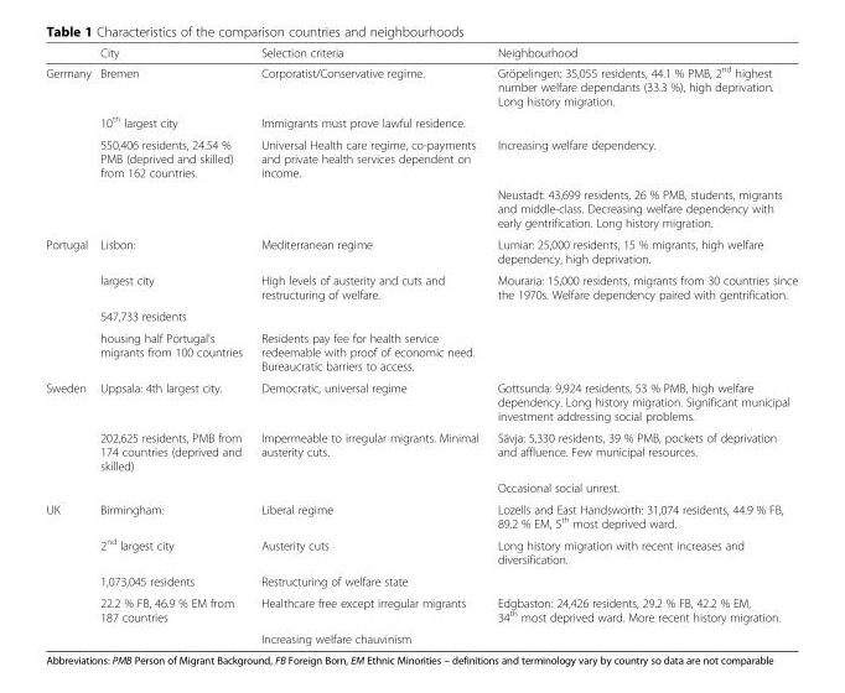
<table><thead><tr><td></td><td>City</td><td>Selection criteria</td><td>Neighbourhood</td></tr></thead><tbody><tr><td rowspan="4">Germany</td><td>Bremen</td><td>Corporatist/Conservative regime.</td><td>Gröpelingen: 35,055 residents, 44.1 % PMB, 2<sup>nd</sup> highest number welfare dependants (33.3 %), high deprivation. Long history migration.</td></tr><tr><td>10<sup>th</sup> largest city</td><td>Immigrants must prove lawful residence.</td><td></td></tr><tr><td>550,406 residents, 24.54 % PMB (deprived and skilled) from 162 countries.</td><td>Universal Health care regime, co-payments and private health services dependent on income.</td><td>Increasing welfare dependency.</td></tr><tr><td></td><td></td><td>Neustadt: 43,699 residents, 26 % PMB, students, migrants and middle-class. Decreasing welfare dependency with early gentrification. Long history migration.</td></tr><tr><td rowspan="4">Portugal</td><td>Lisbon:</td><td>Mediterranean regime</td><td>Lumiar: 25,000 residents, 15 % migrants, high welfare dependency, high deprivation.</td></tr><tr><td>largest city</td><td>High levels of austerity and cuts and restructuring of welfare.</td><td>Mouraria: 15,000 residents, migrants from 30 countries since the 1970s. Welfare dependency paired with gentrification.</td></tr><tr><td>547,733 residents</td><td></td><td></td></tr><tr><td>housing half Portugal’s migrants from 100 countries</td><td>Residents pay fee for health service redeemable with proof of economic need. Bureaucratic barriers to access.</td><td></td></tr><tr><td rowspan="3">Sweden</td><td>Uppsala: 4th largest city.</td><td>Democratic, universal regime</td><td>Gottsunda: 9,924 residents, 53 % PMB, high welfare dependency. Long history migration. Significant municipal investment addressing social problems.</td></tr><tr><td>202,625 residents, PMB from 174 countries (deprived and skilled)</td><td>Impermeable to irregular migrants. Minimal austerity cuts.</td><td>Sävja: 5,330 residents, 39 % PMB, pockets of deprivation and affluence. Few municipal resources.</td></tr><tr><td></td><td></td><td>Occasional social unrest.</td></tr><tr><td rowspan="5">UK</td><td>Birmingham:</td><td>Liberal regime</td><td>Lozells and East Handsworth: 31,074 residents, 44.9 % FB, 89.2 % EM, 5<sup>th</sup> most deprived ward.</td></tr><tr><td>2<sup>nd</sup> largest city</td><td>Austerity cuts</td><td>Long history migration with recent increases and diversification.</td></tr><tr><td>1,073,045 residents</td><td>Restructuring of welfare state</td><td></td></tr><tr><td>22.2 % FB, 46.9 % EM from 187 countries</td><td>Healthcare free except irregular migrants</td><td>Edgbaston: 24,426 residents, 29.2 % FB, 42.2 % EM, 34<sup>th</sup> most deprived ward. More recent history migration.</td></tr><tr><td></td><td>Increasing welfare chauvinism</td><td></td></tr></tbody></table>